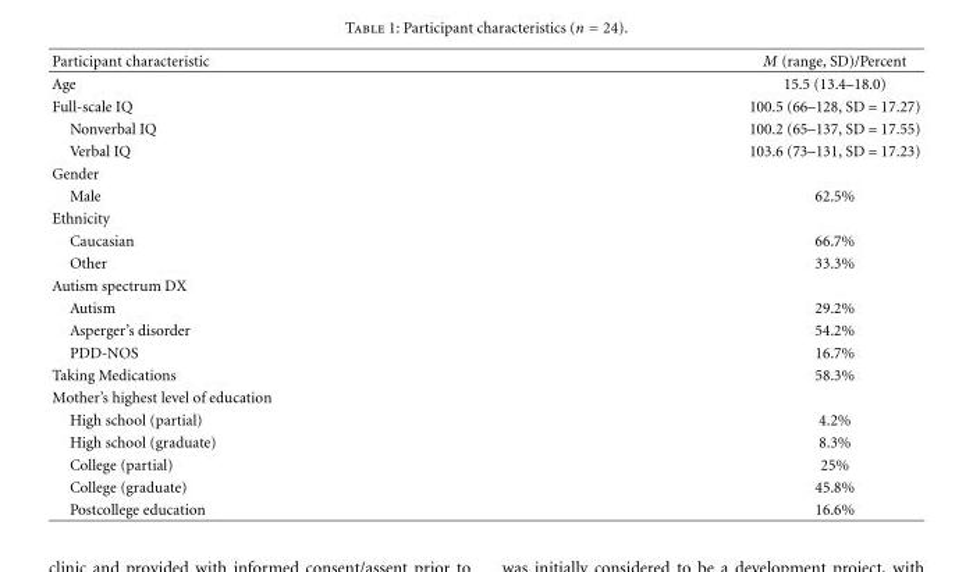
<table><thead><tr><td>Participant characteristic</td><td>M (range, SD)/Percent</td></tr></thead><tbody><tr><td>Age</td><td>15.5 (13.4–18.0)</td></tr><tr><td>Full-scale IQ</td><td>100.5 (66–128, SD = 17.27)</td></tr><tr><td>Nonverbal IQ</td><td>100.2 (65–137, SD = 17.55)</td></tr><tr><td>Verbal IQ</td><td>103.6 (73–131, SD = 17.23)</td></tr><tr><td colspan="2">Gender</td></tr><tr><td>Male</td><td>62.5%</td></tr><tr><td colspan="2">Ethnicity</td></tr><tr><td>Caucasian</td><td>66.7%</td></tr><tr><td>Other</td><td>33.3%</td></tr><tr><td colspan="2">Autism spectrum DX</td></tr><tr><td>Autism</td><td>29.2%</td></tr><tr><td>Asperger’s disorder</td><td>54.2%</td></tr><tr><td>PDD-NOS</td><td>16.7%</td></tr><tr><td>Taking Medications</td><td>58.3%</td></tr><tr><td colspan="2">Mother’s highest level of education</td></tr><tr><td>High school (partial)</td><td>4.2%</td></tr><tr><td>High school (graduate)</td><td>8.3%</td></tr><tr><td>College (partial)</td><td>25%</td></tr><tr><td>College (graduate)</td><td>45.8%</td></tr><tr><td>Postcollege education</td><td>16.6%</td></tr></tbody></table>